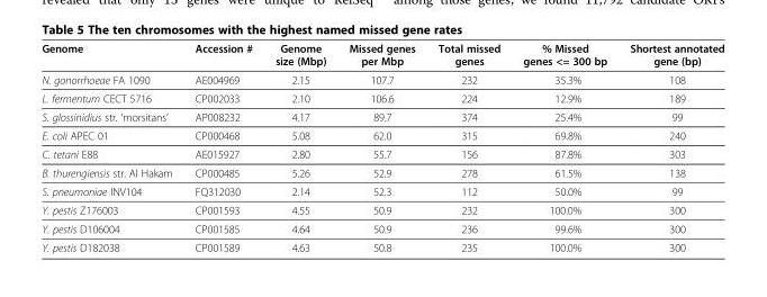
<table><thead><tr><td>Genome</td><td>Accession #</td><td>Genome size (Mbp)</td><td>Missed genes per Mbp</td><td>Total missed genes</td><td>% Missed genes &lt;= 300 bp</td><td>Shortest annotated gene (bp)</td></tr></thead><tbody><tr><td>N. gonorrhoeae FA 1090</td><td>AE004969</td><td>2.15</td><td>107.7</td><td>232</td><td>35.3%</td><td>108</td></tr><tr><td>L. fermentum CECT 5716</td><td>CP002033</td><td>2.10</td><td>106.6</td><td>224</td><td>12.9%</td><td>189</td></tr><tr><td>S. glossinidius str. ‘morsitans’</td><td>AP008232</td><td>4.17</td><td>89.7</td><td>374</td><td>25.4%</td><td>99</td></tr><tr><td>E. coli APEC 01</td><td>CP000468</td><td>5.08</td><td>62.0</td><td>315</td><td>69.8%</td><td>240</td></tr><tr><td>C. tetani E88</td><td>AE015927</td><td>2.80</td><td>55.7</td><td>156</td><td>87.8%</td><td>303</td></tr><tr><td>B. thurengiensis str. Al Hakam</td><td>CP000485</td><td>5.26</td><td>52.9</td><td>278</td><td>61.5%</td><td>138</td></tr><tr><td>S. pneumoniae INV104</td><td>FQ312030</td><td>2.14</td><td>52.3</td><td>112</td><td>50.0%</td><td>99</td></tr><tr><td>Y. pestis Z176003</td><td>CP001593</td><td>4.55</td><td>50.9</td><td>232</td><td>100.0%</td><td>300</td></tr><tr><td>Y. pestis D106004</td><td>CP001585</td><td>4.64</td><td>50.9</td><td>236</td><td>99.6%</td><td>300</td></tr><tr><td>Y. pestis D182038</td><td>CP001589</td><td>4.63</td><td>50.8</td><td>235</td><td>100.0%</td><td>300</td></tr></tbody></table>